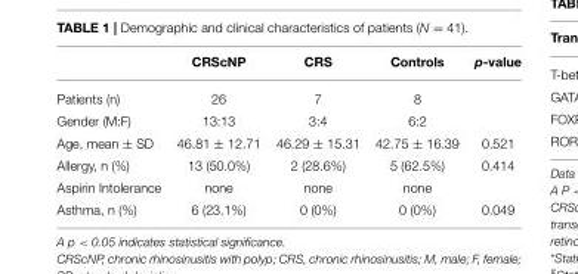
<table><thead><tr><td></td><td>CRScNP</td><td>CRS</td><td>Controls</td><td>p-value</td></tr></thead><tbody><tr><td>Patients (n)</td><td>26</td><td>7</td><td>8</td><td></td></tr><tr><td>Gender (M:F)</td><td>13:13</td><td>3:4</td><td>6:2</td><td></td></tr><tr><td>Age, mean ± SD</td><td>46.81 ± 12.71</td><td>46.29 ± 15.31</td><td>42.75 ± 16.39</td><td>0.521</td></tr><tr><td>Allergy, n (%)</td><td>13 (50.0%)</td><td>2 (28.6%)</td><td>5 (62.5%)</td><td>0.414</td></tr><tr><td>Aspirin Intolerance</td><td>none</td><td>none</td><td>none</td><td></td></tr><tr><td>Asthma, n (%)</td><td>6 (23.1%)</td><td>0 (0%)</td><td>0 (0%)</td><td>0.049</td></tr></tbody></table>